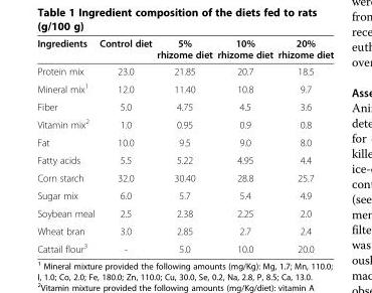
<table><thead><tr><td>Ingredients</td><td>Control diet</td><td>5% rhizome diet</td><td>10% rhizome diet</td><td>20% rhizome diet</td></tr></thead><tbody><tr><td>Protein mix</td><td>23.0</td><td>21.85</td><td>20.7</td><td>18.5</td></tr><tr><td>Mineral mix<sup>1</sup></td><td>12.0</td><td>11.40</td><td>10.8</td><td>9.7</td></tr><tr><td>Fiber</td><td>5.0</td><td>4.75</td><td>4.5</td><td>3.6</td></tr><tr><td>Vitamin mix<sup>2</sup></td><td>1.0</td><td>0.95</td><td>0.9</td><td>0.8</td></tr><tr><td>Fat</td><td>10.0</td><td>9.5</td><td>9.0</td><td>8.0</td></tr><tr><td>Fatty acids</td><td>5.5</td><td>5.22</td><td>4.95</td><td>4.4</td></tr><tr><td>Corn starch</td><td>32.0</td><td>30.40</td><td>28.8</td><td>25.7</td></tr><tr><td>Sugar mix</td><td>6.0</td><td>5.7</td><td>5.4</td><td>4.9</td></tr><tr><td>Soybean meal</td><td>2.5</td><td>2.38</td><td>2.25</td><td>2.0</td></tr><tr><td>Wheat bran</td><td>3.0</td><td>2.85</td><td>2.7</td><td>2.4</td></tr><tr><td>Cattail flour<sup>3</sup></td><td>-</td><td>5.0</td><td>10.0</td><td>20.0</td></tr></tbody></table>